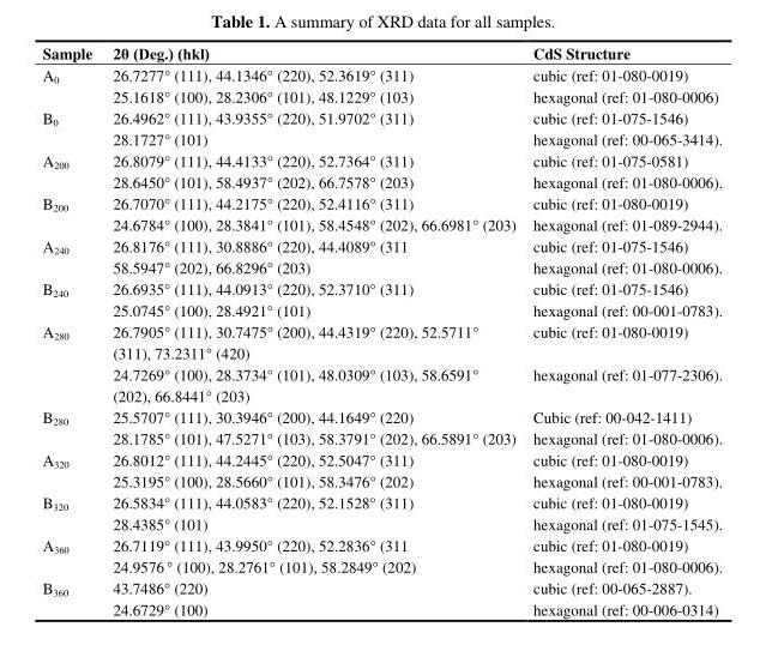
<table><thead><tr><td>Sample</td><td>2θ (Deg.) (hkl)</td><td>CdS Structure</td></tr></thead><tbody><tr><td rowspan="2">A<sub>0</sub></td><td>26.7277° (111), 44.1346° (220), 52.3619° (311)</td><td>cubic (ref: 01-080-0019)</td></tr><tr><td>25.1618° (100), 28.2306° (101), 48.1229° (103)</td><td>hexagonal (ref: 01-080-0006)</td></tr><tr><td rowspan="2">B<sub>0</sub></td><td>26.4962° (111), 43.9355° (220), 51.9702° (311)</td><td>cubic (ref: 01-075-1546)</td></tr><tr><td>28.1727° (101)</td><td>hexagonal (ref: 00-065-3414).</td></tr><tr><td rowspan="2">A<sub>200</sub></td><td>26.8079° (111), 44.4133° (220), 52.7364° (311)</td><td>cubic (ref: 01-075-0581)</td></tr><tr><td>28.6450° (101), 58.4937° (202), 66.7578° (203)</td><td>hexagonal (ref: 01-080-0006).</td></tr><tr><td rowspan="2">B<sub>200</sub></td><td>26.7070° (111), 44.2175° (220), 52.4116° (311)</td><td>cubic (ref: 01-080-0019)</td></tr><tr><td>24.6784° (100), 28.3841° (101), 58.4548° (202), 66.6981° (203)</td><td>hexagonal (ref: 01-089-2944).</td></tr><tr><td rowspan="2">A<sub>240</sub></td><td>26.8176° (111), 30.8886° (220), 44.4089° (311</td><td>cubic (ref: 01-075-1546)</td></tr><tr><td>58.5947° (202), 66.8296° (203)</td><td>hexagonal (ref: 01-080-0006).</td></tr><tr><td rowspan="2">B<sub>240</sub></td><td>26.6935° (111), 44.0913° (220), 52.3710° (311)</td><td>cubic (ref: 01-075-1546)</td></tr><tr><td>25.0745° (100), 28.4921° (101)</td><td>hexagonal (ref: 00-001-0783).</td></tr><tr><td rowspan="2">A<sub>280</sub></td><td>26.7905° (111), 30.7475° (200), 44.4319° (220), 52.5711° (311), 73.2311° (420)</td><td>cubic (ref: 01-080-0019)</td></tr><tr><td>24.7269° (100), 28.3734° (101), 48.0309° (103), 58.6591° (202), 66.8441° (203)</td><td>hexagonal (ref: 01-077-2306).</td></tr><tr><td rowspan="2">B<sub>280</sub></td><td>25.5707° (111), 30.3946° (200), 44.1649° (220)</td><td>Cubic (ref: 00-042-1411)</td></tr><tr><td>28.1785° (101), 47.5271° (103), 58.3791° (202), 66.5891° (203)</td><td>hexagonal (ref: 01-080-0006).</td></tr><tr><td rowspan="2">A<sub>320</sub></td><td>26.8012° (111), 44.2445° (220), 52.5047° (311)</td><td>cubic (ref: 01-080-0019)</td></tr><tr><td>25.3195° (100), 28.5660° (101), 58.3476° (202)</td><td>hexagonal (ref: 00-001-0783).</td></tr><tr><td rowspan="2">B<sub>320</sub></td><td>26.5834° (111), 44.0583° (220), 52.1528° (311)</td><td>cubic (ref: 01-080-0019)</td></tr><tr><td>28.4385° (101)</td><td>hexagonal (ref: 01-075-1545).</td></tr><tr><td rowspan="2">A<sub>360</sub></td><td>26.7119° (111), 43.9950° (220), 52.2836° (311</td><td>cubic (ref: 01-080-0019)</td></tr><tr><td>24.9576 ° (100), 28.2761° (101), 58.2849° (202)</td><td>hexagonal (ref: 01-080-0006).</td></tr><tr><td rowspan="2">B<sub>360</sub></td><td>43.7486° (220)</td><td>cubic (ref: 00-065-2887).</td></tr><tr><td>24.6729° (100)</td><td>hexagonal (ref: 00-006-0314)</td></tr></tbody></table>